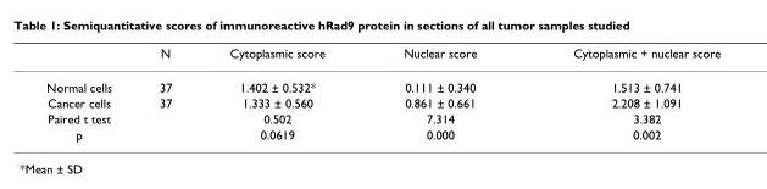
<table><thead><tr><td></td><td>N</td><td>Cytoplasmic score</td><td>Nuclear score</td><td>Cytoplasmic + nuclear score</td></tr></thead><tbody><tr><td>Normal cells</td><td>37</td><td>1.402 ± 0.532*</td><td>0.111 ± 0.340</td><td>1.513 ± 0.741</td></tr><tr><td>Cancer cells</td><td>37</td><td>1.333 ± 0.560</td><td>0.861 ± 0.661</td><td>2.208 ± 1.091</td></tr><tr><td>Paired t test</td><td></td><td>0.502</td><td>7.314</td><td>3.382</td></tr><tr><td>p</td><td></td><td>0.0619</td><td>0.000</td><td>0.002</td></tr></tbody></table>